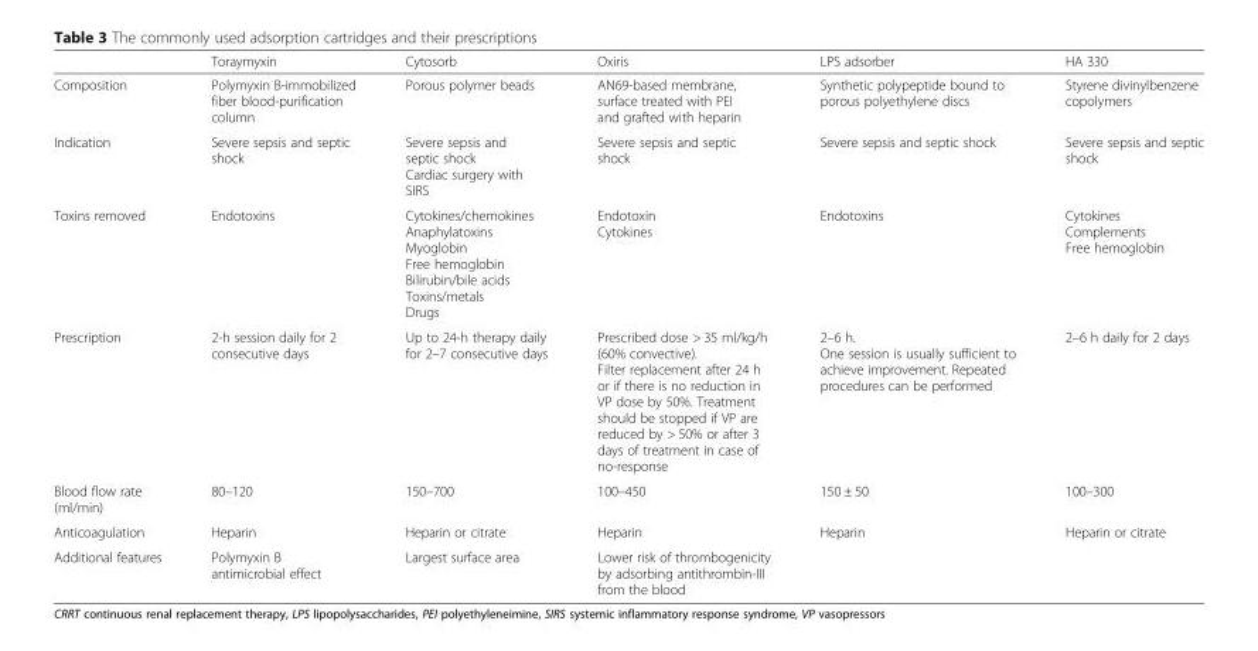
<table><thead><tr><td></td><td>Toraymyxin</td><td>Cytosorb</td><td>Oxiris</td><td>LPS adsorber</td><td>HA 330</td></tr></thead><tbody><tr><td>Composition</td><td>Polymyxin B-immobilized fiber blood-purification column</td><td>Porous polymer beads</td><td>AN69-based membrane, surface treated with PEI and grafted with heparin</td><td>Synthetic polypeptide bound to porous polyethylene discs</td><td>Styrene divinylbenzene copolymers</td></tr><tr><td>Indication</td><td>Severe sepsis and septic shock</td><td>Severe sepsis and septic shock Cardiac surgery with SIRS</td><td>Severe sepsis and septic shock</td><td>Severe sepsis and septic shock</td><td>Severe sepsis and septic shock</td></tr><tr><td>Toxins removed</td><td>Endotoxins</td><td>Cytokines/chemokines Anaphylatoxins Myoglobin Free hemoglobin Bilirubin/bile acids Toxins/metals Drugs</td><td>Endotoxin Cytokines</td><td>Endotoxins</td><td>Cytokines Complements Free hemoglobin</td></tr><tr><td>Prescription</td><td>2-h session daily for 2 consecutive days</td><td>Up to 24-h therapy daily for 2–7 consecutive days</td><td>Prescribed dose &gt; 35 ml/kg/h (60% convective). Filter replacement after 24 h or if there is no reduction in VP dose by 50%. Treatment should be stopped if VP are reduced by &gt; 50% or after 3 days of treatment in case of no-response</td><td>2–6 h. One session is usually sufficient to achieve improvement. Repeated procedures can be performed</td><td>2–6 h daily for 2 days</td></tr><tr><td>Blood flow rate (ml/min)</td><td>80–120</td><td>150–700</td><td>100–450</td><td>150 ± 50</td><td>100–300</td></tr><tr><td>Anticoagulation</td><td>Heparin</td><td>Heparin or citrate</td><td>Heparin</td><td>Heparin</td><td>Heparin or citrate</td></tr><tr><td>Additional features</td><td>Polymyxin B antimicrobial effect</td><td>Largest surface area</td><td>Lower risk of thrombogenicity by adsorbing antithrombin-III from the blood</td><td></td><td></td></tr></tbody></table>